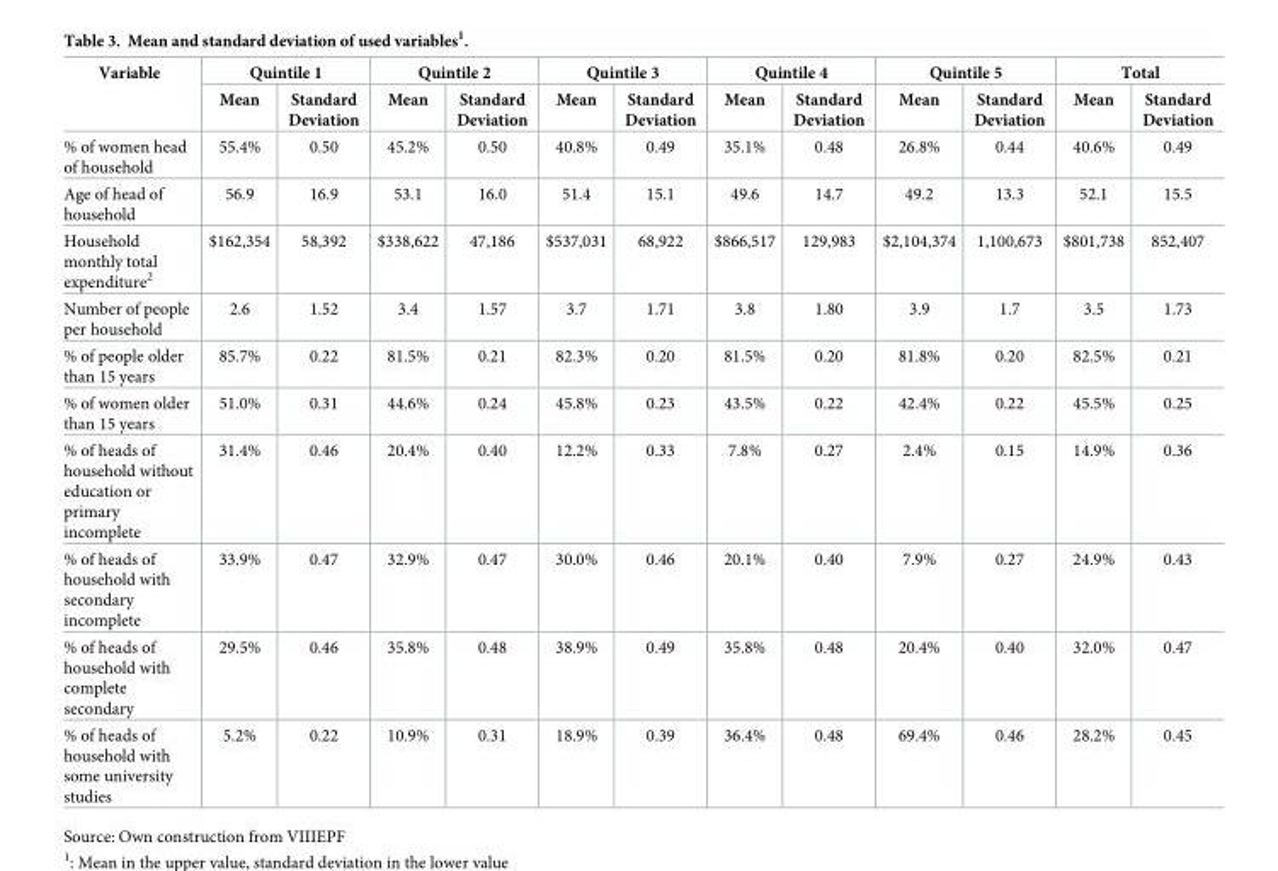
<table><thead><tr><td rowspan="2">Variable</td><td colspan="2">Quintile 1</td><td colspan="2">Quintile 2</td><td colspan="2">Quintile 3</td><td colspan="2">Quintile 4</td><td colspan="2">Quintile 5</td><td colspan="2">Total</td></tr><tr><td>Mean</td><td>Standard Deviation</td><td>Mean</td><td>Standard Deviation</td><td>Mean</td><td>Standard Deviation</td><td>Mean</td><td>Standard Deviation</td><td>Mean</td><td>Standard Deviation</td><td>Mean</td><td>Standard Deviation</td></tr></thead><tbody><tr><td>% of women head of household</td><td>55.4%</td><td>0.50</td><td>45.2%</td><td>0.50</td><td>40.8%</td><td>0.49</td><td>35.1%</td><td>0.48</td><td>26.8%</td><td>0.44</td><td>40.6%</td><td>0.49</td></tr><tr><td>Age of head of household</td><td>56.9</td><td>16.9</td><td>53.1</td><td>16.0</td><td>51.4</td><td>15.1</td><td>49.6</td><td>14.7</td><td>49.2</td><td>13.3</td><td>52.1</td><td>15.5</td></tr><tr><td>Household monthly total expenditure<sup>2</sup></td><td>$162,354</td><td>58,392</td><td>$338,622</td><td>47,186</td><td>$537,031</td><td>68,922</td><td>$866,517</td><td>129,983</td><td>$2,104,374</td><td>1,100,673</td><td>$801,738</td><td>852,407</td></tr><tr><td>Number of people per household</td><td>2.6</td><td>1.52</td><td>3.4</td><td>1.57</td><td>3.7</td><td>1.71</td><td>3.8</td><td>1.80</td><td>3.9</td><td>1.7</td><td>3.5</td><td>1.73</td></tr><tr><td>% of people older than 15 years</td><td>85.7%</td><td>0.22</td><td>81.5%</td><td>0.21</td><td>82.3%</td><td>0.20</td><td>81.5%</td><td>0.20</td><td>81.8%</td><td>0.20</td><td>82.5%</td><td>0.21</td></tr><tr><td>% of women older than 15 years</td><td>51.0%</td><td>0.31</td><td>44.6%</td><td>0.24</td><td>45.8%</td><td>0.23</td><td>43.5%</td><td>0.22</td><td>42.4%</td><td>0.22</td><td>45.5%</td><td>0.25</td></tr><tr><td>% of heads of household without education or primary incomplete</td><td>31.4%</td><td>0.46</td><td>20.4%</td><td>0.40</td><td>12.2%</td><td>0.33</td><td>7.8%</td><td>0.27</td><td>2.4%</td><td>0.15</td><td>14.9%</td><td>0.36</td></tr><tr><td>% of heads of household with secondary incomplete</td><td>33.9%</td><td>0.47</td><td>32.9%</td><td>0.47</td><td>30.0%</td><td>0.46</td><td>20.1%</td><td>0.40</td><td>7.9%</td><td>0.27</td><td>24.9%</td><td>0.43</td></tr><tr><td>% of heads of household with complete secondary</td><td>29.5%</td><td>0.46</td><td>35.8%</td><td>0.48</td><td>38.9%</td><td>0.49</td><td>35.8%</td><td>0.48</td><td>20.4%</td><td>0.40</td><td>32.0%</td><td>0.47</td></tr><tr><td>% of heads of household with some university studies</td><td>5.2%</td><td>0.22</td><td>10.9%</td><td>0.31</td><td>18.9%</td><td>0.39</td><td>36.4%</td><td>0.48</td><td>69.4%</td><td>0.46</td><td>28.2%</td><td>0.45</td></tr></tbody></table>